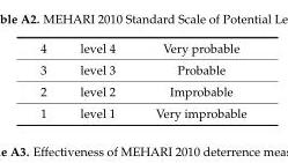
<table><tbody><tr><td>4</td><td>level 4</td><td>Very probable</td></tr><tr><td>3</td><td>level 3</td><td>Probable</td></tr><tr><td>2</td><td>level 2</td><td>Improbable</td></tr><tr><td>1</td><td>level 1</td><td>Very improbable</td></tr></tbody></table>